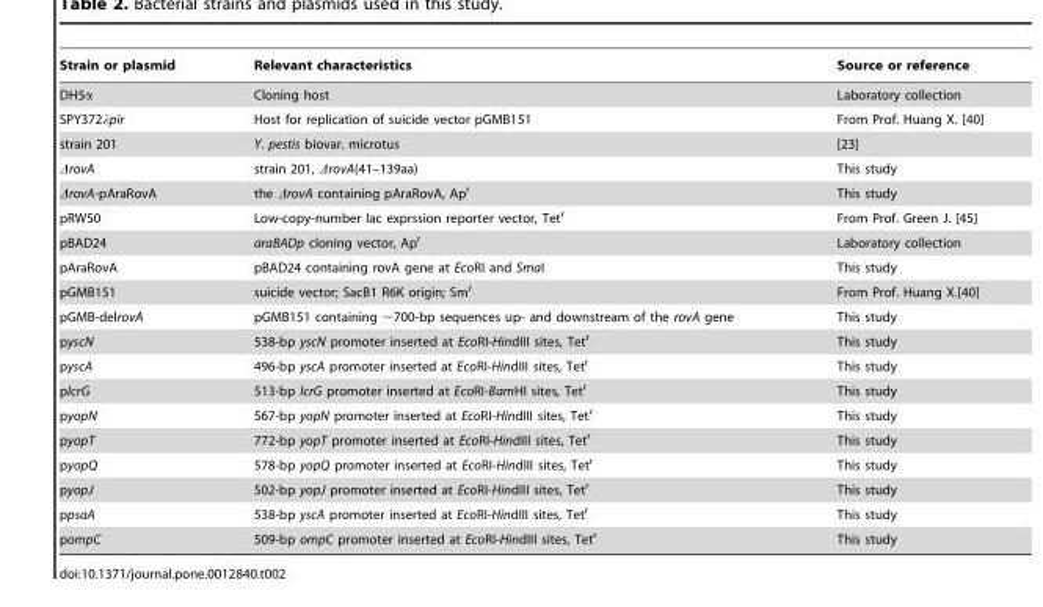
<table><thead><tr><td>Strain or plasmid</td><td>Relevant characteristics</td><td>Source or reference</td></tr></thead><tbody><tr><td>DH5α</td><td>Cloning host</td><td>Laboratory collection</td></tr><tr><td>SPY372λpir</td><td>Host for replication of suicide vector pGMB151</td><td>From Prof. Huang X. [40]</td></tr><tr><td>strain 201</td><td>Y. pestis biovar. microtus</td><td>[23]</td></tr><tr><td>ΔrovA</td><td>strain 201, ΔrovA(41–139aa)</td><td>This study</td></tr><tr><td>ΔrovA-pAraRovA</td><td>the ΔrovA containing pAraRovA, Ap<sup>r</sup></td><td>This study</td></tr><tr><td>pRW50</td><td>Low-copy-number lac exprssion reporter vector, Tet<sup>r</sup></td><td>From Prof. Green J. [45]</td></tr><tr><td>pBAD24</td><td>araBADp cloning vector, Ap<sup>r</sup></td><td>Laboratory collection</td></tr><tr><td>pAraRovA</td><td>pBAD24 containing rovA gene at EcoRI and SmaI</td><td>This study</td></tr><tr><td>pGMB151</td><td>suicide vector; SacB1 R6K origin; Sm<sup>r</sup></td><td>From Prof. Huang X.[40]</td></tr><tr><td>pGMB-delrovA</td><td>pGMB151 containing ∼700-bp sequences up- and downstream of the rovA gene</td><td>This study</td></tr><tr><td>pyscN</td><td>538-bp yscN promoter inserted at EcoRI-HindIII sites, Tet<sup>r</sup></td><td>This study</td></tr><tr><td>pyscA</td><td>496-bp yscA promoter inserted at EcoRI-HindIII sites, Tet<sup>r</sup></td><td>This study</td></tr><tr><td>plcrG</td><td>513-bp lcrG promoter inserted at EcoRI-BamHI sites, Tet<sup>r</sup></td><td>This study</td></tr><tr><td>pyopN</td><td>567-bp yopN promoter inserted at EcoRI-HindIII sites, Tet<sup>r</sup></td><td>This study</td></tr><tr><td>pyopT</td><td>772-bp yopT promoter inserted at EcoRI-HindIII sites, Tet<sup>r</sup></td><td>This study</td></tr><tr><td>pyopQ</td><td>578-bp yopQ promoter inserted at EcoRI-HindIII sites, Tet<sup>r</sup></td><td>This study</td></tr><tr><td>pyopJ</td><td>502-bp yopJ promoter inserted at EcoRI-HindIII sites, Tet<sup>r</sup></td><td>This study</td></tr><tr><td>ppsaA</td><td>538-bp yscA promoter inserted at EcoRI-HindIII sites, Tet<sup>r</sup></td><td>This study</td></tr><tr><td>pompC</td><td>509-bp ompC promoter inserted at EcoRI-HindIII sites, Tet<sup>r</sup></td><td>This study</td></tr></tbody></table>